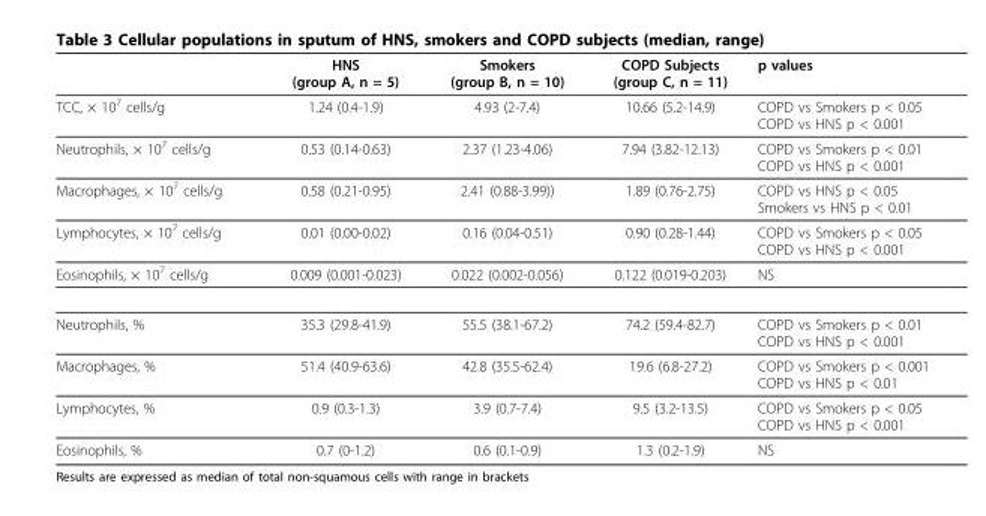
<table><thead><tr><td></td><td>HNS (group A, n = 5)</td><td>Smokers (group B, n = 10)</td><td>COPD Subjects (group C, n = 11)</td><td>p values</td></tr></thead><tbody><tr><td>TCC, × 10<sup>7</sup> cells/g</td><td>1.24 (0.4-1.9)</td><td>4.93 (2-7.4)</td><td>10.66 (5.2-14.9)</td><td>COPD vs Smokers p &lt; 0.05 COPD vs HNS p &lt; 0.001</td></tr><tr><td>Neutrophils, × 10<sup>7</sup> cells/g</td><td>0.53 (0.14-0.63)</td><td>2.37 (1.23-4.06)</td><td>7.94 (3.82-12.13)</td><td>COPD vs Smokers p &lt; 0.01 COPD vs HNS p &lt; 0.001</td></tr><tr><td>Macrophages, × 10<sup>7</sup> cells/g</td><td>0.58 (0.21-0.95)</td><td>2.41 (0.88-3.99))</td><td>1.89 (0.76-2.75)</td><td>COPD vs HNS p &lt; 0.05 Smokers vs HNS p &lt; 0.01</td></tr><tr><td>Lymphocytes, × 10<sup>7</sup> cells/g</td><td>0.01 (0.00-0.02)</td><td>0.16 (0.04-0.51)</td><td>0.90 (0.28-1.44)</td><td>COPD vs Smokers p &lt; 0.05 COPD vs HNS p &lt; 0.001</td></tr><tr><td>Eosinophils, × 10<sup>7</sup> cells/g</td><td>0.009 (0.001-0.023)</td><td>0.022 (0.002-0.056)</td><td>0.122 (0.019-0.203)</td><td>NS</td></tr><tr><td>Neutrophils, %</td><td>35.3 (29.8-41.9)</td><td>55.5 (38.1-67.2)</td><td>74.2 (59.4-82.7)</td><td>COPD vs Smokers p &lt; 0.01 COPD vs HNS p &lt; 0.001</td></tr><tr><td>Macrophages, %</td><td>51.4 (40.9-63.6)</td><td>42.8 (35.5-62.4)</td><td>19.6 (6.8-27.2)</td><td>COPD vs Smokers p &lt; 0.001 COPD vs HNS p &lt; 0.01</td></tr><tr><td>Lymphocytes, %</td><td>0.9 (0.3-1.3)</td><td>3.9 (0.7-7.4)</td><td>9.5 (3.2-13.5)</td><td>COPD vs Smokers p &lt; 0.05 COPD vs HNS p &lt; 0.001</td></tr><tr><td>Eosinophils, %</td><td>0.7 (0-1.2)</td><td>0.6 (0.1-0.9)</td><td>1.3 (0.2-1.9)</td><td>NS</td></tr></tbody></table>